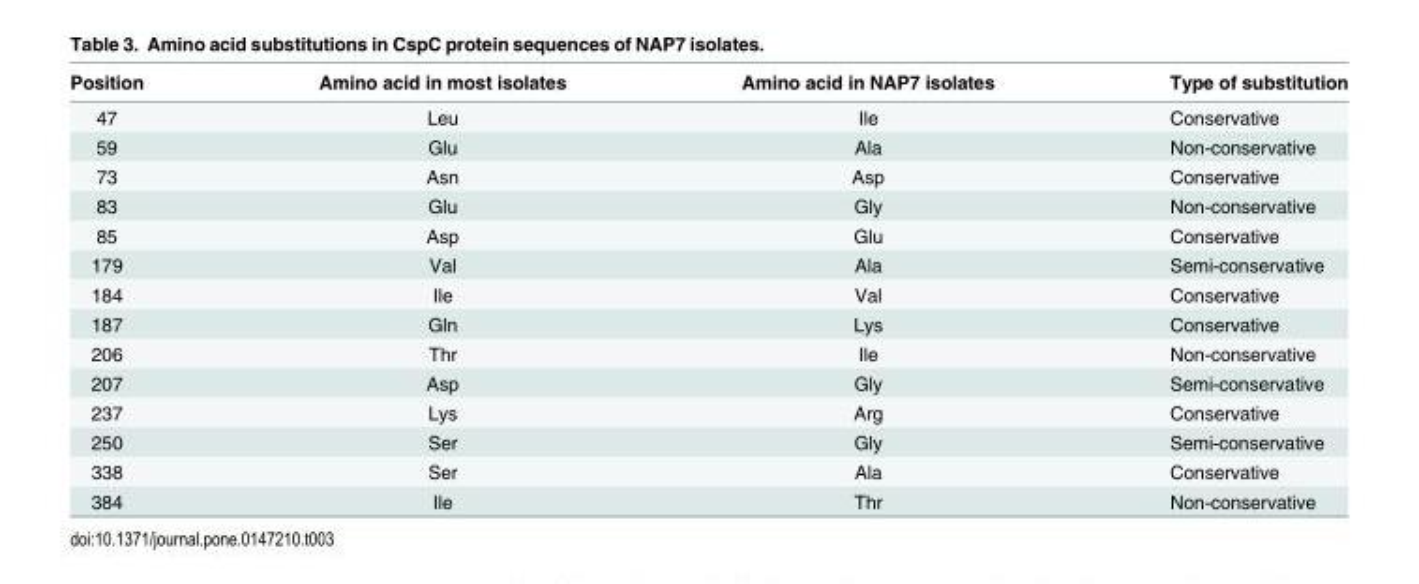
<table><thead><tr><td>Position</td><td>Amino acid in most isolates</td><td>Amino acid in NAP7 isolates</td><td>Type of substitution</td></tr></thead><tbody><tr><td>47</td><td>Leu</td><td>Ile</td><td>Conservative</td></tr><tr><td>59</td><td>Glu</td><td>Ala</td><td>Non-conservative</td></tr><tr><td>73</td><td>Asn</td><td>Asp</td><td>Conservative</td></tr><tr><td>83</td><td>Glu</td><td>Gly</td><td>Non-conservative</td></tr><tr><td>85</td><td>Asp</td><td>Glu</td><td>Conservative</td></tr><tr><td>179</td><td>Val</td><td>Ala</td><td>Semi-conservative</td></tr><tr><td>184</td><td>Ile</td><td>Val</td><td>Conservative</td></tr><tr><td>187</td><td>Gln</td><td>Lys</td><td>Conservative</td></tr><tr><td>206</td><td>Thr</td><td>Ile</td><td>Non-conservative</td></tr><tr><td>207</td><td>Asp</td><td>Gly</td><td>Semi-conservative</td></tr><tr><td>237</td><td>Lys</td><td>Arg</td><td>Conservative</td></tr><tr><td>250</td><td>Ser</td><td>Gly</td><td>Semi-conservative</td></tr><tr><td>338</td><td>Ser</td><td>Ala</td><td>Conservative</td></tr><tr><td>384</td><td>Ile</td><td>Thr</td><td>Non-conservative</td></tr></tbody></table>